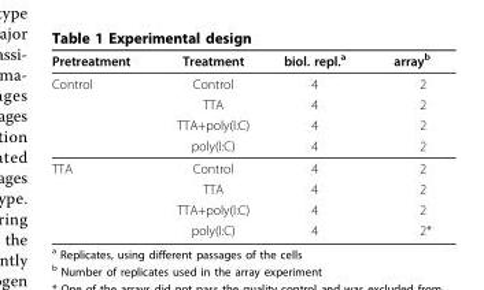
<table><thead><tr><td>Pretreatment</td><td>Treatment</td><td>biol. repl.<sup>a</sup></td><td>array<sup>b</sup></td></tr></thead><tbody><tr><td rowspan="4">Control</td><td>Control</td><td>4</td><td>2</td></tr><tr><td>TTA</td><td>4</td><td>2</td></tr><tr><td>TTA+poly(I:C)</td><td>4</td><td>2</td></tr><tr><td>poly(I:C)</td><td>4</td><td>2</td></tr><tr><td rowspan="4">TTA</td><td>Control</td><td>4</td><td>2</td></tr><tr><td>TTA</td><td>4</td><td>2</td></tr><tr><td>TTA+poly(I:C)</td><td>4</td><td>2</td></tr><tr><td>poly(I:C)</td><td>4</td><td>2*</td></tr></tbody></table>